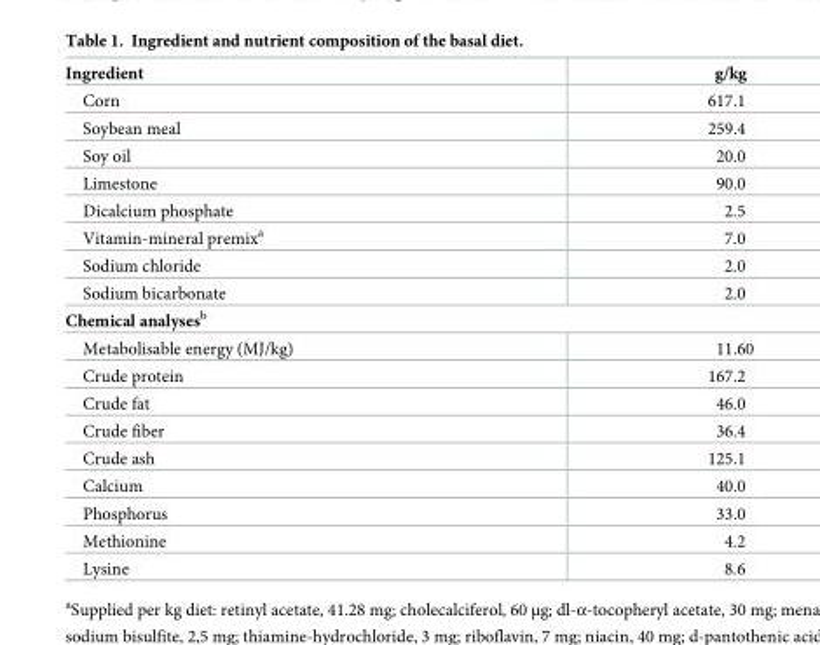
<table><thead><tr><td>Ingredient</td><td>g/kg</td></tr></thead><tbody><tr><td>Corn</td><td>617.1</td></tr><tr><td>Soybean meal</td><td>259.4</td></tr><tr><td>Soy oil</td><td>20.0</td></tr><tr><td>Limestone</td><td>90.0</td></tr><tr><td>Dicalcium phosphate</td><td>2.5</td></tr><tr><td>Vitamin-mineral premix<sup>a</sup></td><td>7.0</td></tr><tr><td>Sodium chloride</td><td>2.0</td></tr><tr><td>Sodium bicarbonate</td><td>2.0</td></tr><tr><td colspan="2">Chemical analyses<sup>b</sup></td></tr><tr><td>Metabolisable energy (MJ/kg)</td><td>11.60</td></tr><tr><td>Crude protein</td><td>167.2</td></tr><tr><td>Crude fat</td><td>46.0</td></tr><tr><td>Crude fiber</td><td>36.4</td></tr><tr><td>Crude ash</td><td>125.1</td></tr><tr><td>Calcium</td><td>40.0</td></tr><tr><td>Phosphorus</td><td>33.0</td></tr><tr><td>Methionine</td><td>4.2</td></tr><tr><td>Lysine</td><td>8.6</td></tr></tbody></table>